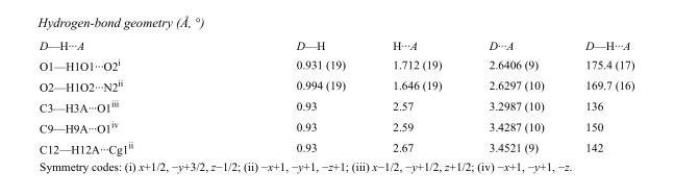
<table><tbody><tr><td>D—H···A</td><td>D—H</td><td>H···A</td><td>D···A</td><td>D—H···A</td></tr><tr><td>O1—H1O1···O2<sup>i</sup></td><td>0.931 (19)</td><td>1.712 (19)</td><td>2.6406 (9)</td><td>175.4 (17)</td></tr><tr><td>O2—H1O2···N2<sup>ii</sup></td><td>0.994 (19)</td><td>1.646 (19)</td><td>2.6297 (10)</td><td>169.7 (16)</td></tr><tr><td>C3—H3A···O1<sup>iii</sup></td><td>0.93</td><td>2.57</td><td>3.2987 (10)</td><td>136</td></tr><tr><td>C9—H9A···O1<sup>iv</sup></td><td>0.93</td><td>2.59</td><td>3.4287 (10)</td><td>150</td></tr><tr><td>C12—H12A···Cg1<sup>ii</sup></td><td>0.93</td><td>2.67</td><td>3.4521 (9)</td><td>142</td></tr></tbody></table>